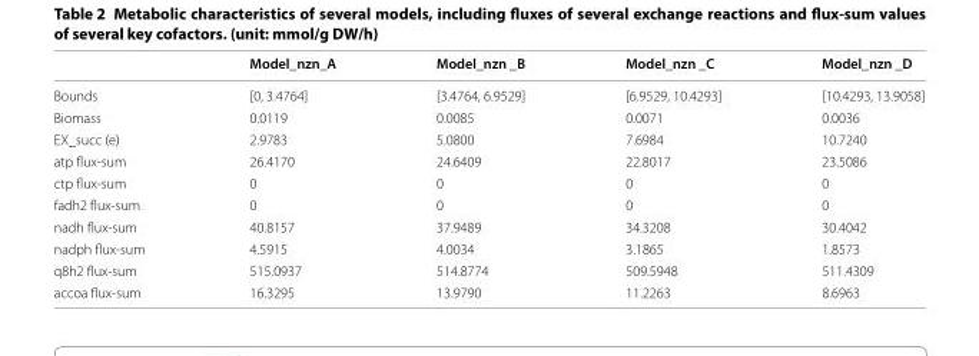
<table><thead><tr><td></td><td>Model_nzn_A</td><td>Model_nzn _B</td><td>Model_nzn _C</td><td>Model_nzn _D</td></tr></thead><tbody><tr><td>Bounds</td><td>[0, 3.4764]</td><td>[3.4764, 6.9529]</td><td>[6.9529, 10.4293]</td><td>[10.4293, 13.9058]</td></tr><tr><td>Biomass</td><td>0.0119</td><td>0.0085</td><td>0.0071</td><td>0.0036</td></tr><tr><td>EX_succ (e)</td><td>2.9783</td><td>5.0800</td><td>7.6984</td><td>10.7240</td></tr><tr><td>atp flux-sum</td><td>26.4170</td><td>24.6409</td><td>22.8017</td><td>23.5086</td></tr><tr><td>ctp flux-sum</td><td>0</td><td>0</td><td>0</td><td>0</td></tr><tr><td>fadh2 flux-sum</td><td>0</td><td>0</td><td>0</td><td>0</td></tr><tr><td>nadh flux-sum</td><td>40.8157</td><td>37.9489</td><td>34.3208</td><td>30.4042</td></tr><tr><td>nadph flux-sum</td><td>4.5915</td><td>4.0034</td><td>3.1865</td><td>1.8573</td></tr><tr><td>q8h2 flux-sum</td><td>515.0937</td><td>514.8774</td><td>509.5948</td><td>511.4309</td></tr><tr><td>accoa flux-sum</td><td>16.3295</td><td>13.9790</td><td>11.2263</td><td>8.6963</td></tr></tbody></table>